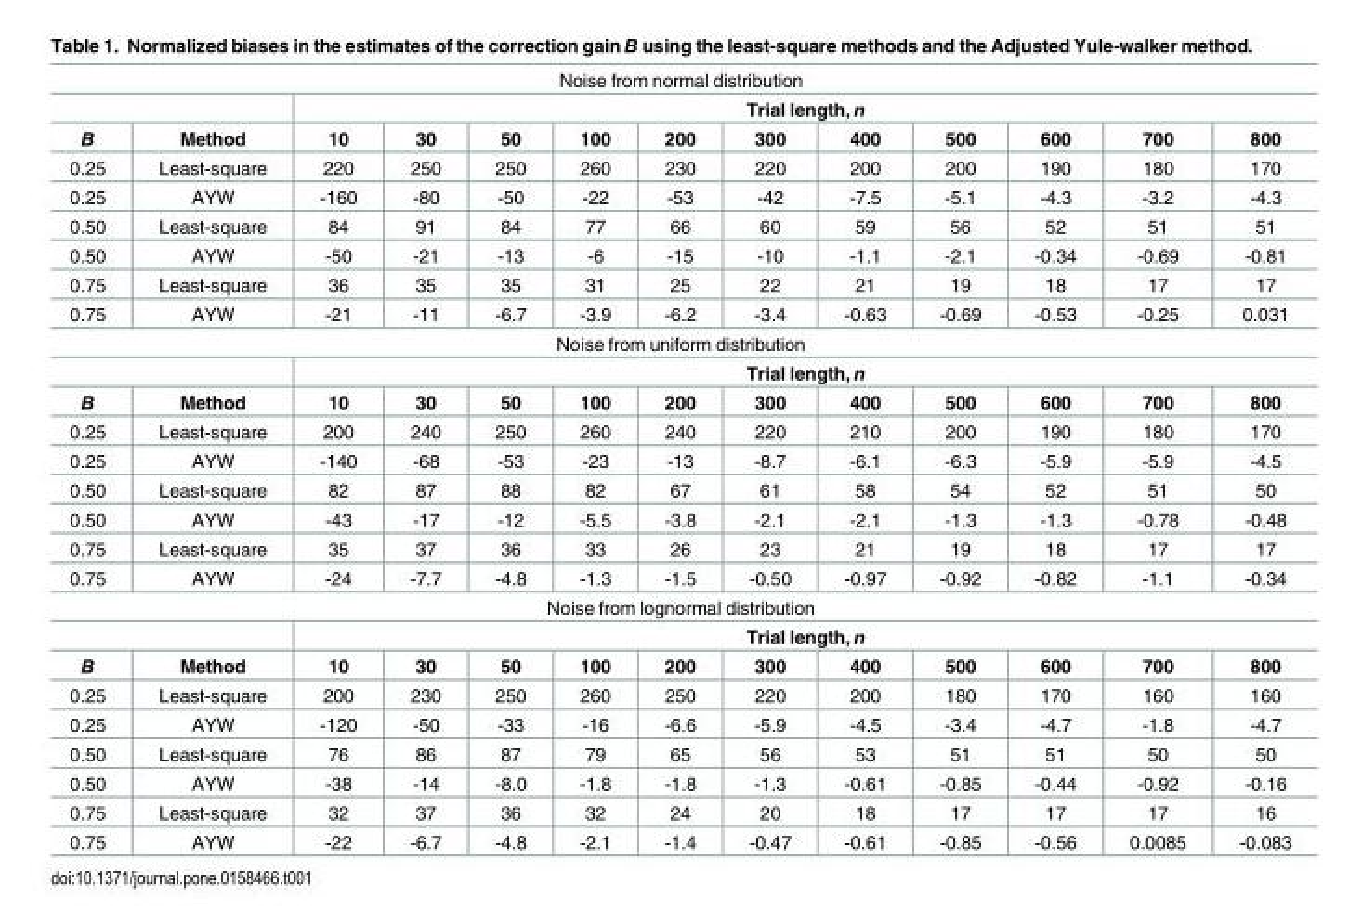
<table><tbody><tr><td colspan="13">Noise from normal distribution</td></tr><tr><td colspan="2"></td><td colspan="11">Trial length, n</td></tr><tr><td>B</td><td>Method</td><td>10</td><td>30</td><td>50</td><td>100</td><td>200</td><td>300</td><td>400</td><td>500</td><td>600</td><td>700</td><td>800</td></tr><tr><td>0.25</td><td>Least-square</td><td>220</td><td>250</td><td>250</td><td>260</td><td>230</td><td>220</td><td>200</td><td>200</td><td>190</td><td>180</td><td>170</td></tr><tr><td>0.25</td><td>AYW</td><td>-160</td><td>-80</td><td>-50</td><td>-22</td><td>-53</td><td>-42</td><td>-7.5</td><td>-5.1</td><td>-4.3</td><td>-3.2</td><td>-4.3</td></tr><tr><td>0.50</td><td>Least-square</td><td>84</td><td>91</td><td>84</td><td>77</td><td>66</td><td>60</td><td>59</td><td>56</td><td>52</td><td>51</td><td>51</td></tr><tr><td>0.50</td><td>AYW</td><td>-50</td><td>-21</td><td>-13</td><td>-6</td><td>-15</td><td>-10</td><td>-1.1</td><td>-2.1</td><td>-0.34</td><td>-0.69</td><td>-0.81</td></tr><tr><td>0.75</td><td>Least-square</td><td>36</td><td>35</td><td>35</td><td>31</td><td>25</td><td>22</td><td>21</td><td>19</td><td>18</td><td>17</td><td>17</td></tr><tr><td>0.75</td><td>AYW</td><td>-21</td><td>-11</td><td>-6.7</td><td>-3.9</td><td>-6.2</td><td>-3.4</td><td>-0.63</td><td>-0.69</td><td>-0.53</td><td>-0.25</td><td>0.031</td></tr><tr><td colspan="13">Noise from uniform distribution</td></tr><tr><td colspan="2"></td><td colspan="11">Trial length, n</td></tr><tr><td>B</td><td>Method</td><td>10</td><td>30</td><td>50</td><td>100</td><td>200</td><td>300</td><td>400</td><td>500</td><td>600</td><td>700</td><td>800</td></tr><tr><td>0.25</td><td>Least-square</td><td>200</td><td>240</td><td>250</td><td>260</td><td>240</td><td>220</td><td>210</td><td>200</td><td>190</td><td>180</td><td>170</td></tr><tr><td>0.25</td><td>AYW</td><td>-140</td><td>-68</td><td>-53</td><td>-23</td><td>-13</td><td>-8.7</td><td>-6.1</td><td>-6.3</td><td>-5.9</td><td>-5.9</td><td>-4.5</td></tr><tr><td>0.50</td><td>Least-square</td><td>82</td><td>87</td><td>88</td><td>82</td><td>67</td><td>61</td><td>58</td><td>54</td><td>52</td><td>51</td><td>50</td></tr><tr><td>0.50</td><td>AYW</td><td>-43</td><td>-17</td><td>-12</td><td>-5.5</td><td>-3.8</td><td>-2.1</td><td>-2.1</td><td>-1.3</td><td>-1.3</td><td>-0.78</td><td>-0.48</td></tr><tr><td>0.75</td><td>Least-square</td><td>35</td><td>37</td><td>36</td><td>33</td><td>26</td><td>23</td><td>21</td><td>19</td><td>18</td><td>17</td><td>17</td></tr><tr><td>0.75</td><td>AYW</td><td>-24</td><td>-7.7</td><td>-4.8</td><td>-1.3</td><td>-1.5</td><td>-0.50</td><td>-0.97</td><td>-0.92</td><td>-0.82</td><td>-1.1</td><td>-0.34</td></tr><tr><td colspan="13">Noise from lognormal distribution</td></tr><tr><td colspan="2"></td><td colspan="11">Trial length, n</td></tr><tr><td>B</td><td>Method</td><td>10</td><td>30</td><td>50</td><td>100</td><td>200</td><td>300</td><td>400</td><td>500</td><td>600</td><td>700</td><td>800</td></tr><tr><td>0.25</td><td>Least-square</td><td>200</td><td>230</td><td>250</td><td>260</td><td>250</td><td>220</td><td>200</td><td>180</td><td>170</td><td>160</td><td>160</td></tr><tr><td>0.25</td><td>AYW</td><td>-120</td><td>-50</td><td>-33</td><td>-16</td><td>-6.6</td><td>-5.9</td><td>-4.5</td><td>-3.4</td><td>-4.7</td><td>-1.8</td><td>-4.7</td></tr><tr><td>0.50</td><td>Least-square</td><td>76</td><td>86</td><td>87</td><td>79</td><td>65</td><td>56</td><td>53</td><td>51</td><td>51</td><td>50</td><td>50</td></tr><tr><td>0.50</td><td>AYW</td><td>-38</td><td>-14</td><td>-8.0</td><td>-1.8</td><td>-1.8</td><td>-1.3</td><td>-0.61</td><td>-0.85</td><td>-0.44</td><td>-0.92</td><td>-0.16</td></tr><tr><td>0.75</td><td>Least-square</td><td>32</td><td>37</td><td>36</td><td>32</td><td>24</td><td>20</td><td>18</td><td>17</td><td>17</td><td>17</td><td>16</td></tr><tr><td>0.75</td><td>AYW</td><td>-22</td><td>-6.7</td><td>-4.8</td><td>-2.1</td><td>-1.4</td><td>-0.47</td><td>-0.61</td><td>-0.85</td><td>-0.56</td><td>0.0085</td><td>-0.083</td></tr></tbody></table>